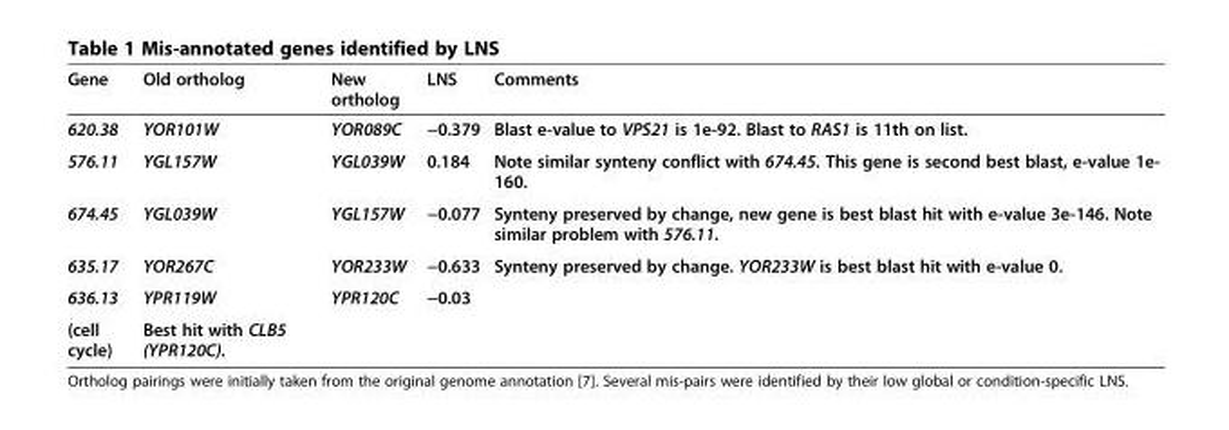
<table><thead><tr><td>Gene</td><td>Old ortholog</td><td>New ortholog</td><td>LNS</td><td>Comments</td></tr></thead><tbody><tr><td>620.38</td><td>YOR101W</td><td>YOR089C</td><td>−0.379</td><td>Blast e-value to VPS21 is 1e-92. Blast to RAS1 is 11th on list.</td></tr><tr><td>576.11</td><td>YGL157W</td><td>YGL039W</td><td>0.184</td><td>Note similar synteny conflict with 674.45. This gene is second best blast, e-value 1e- 160.</td></tr><tr><td>674.45</td><td>YGL039W</td><td>YGL157W</td><td>−0.077</td><td>Synteny preserved by change, new gene is best blast hit with e-value 3e-146. Note similar problem with 576.11.</td></tr><tr><td>635.17</td><td>YOR267C</td><td>YOR233W</td><td>−0.633</td><td>Synteny preserved by change. YOR233W is best blast hit with e-value 0.</td></tr><tr><td>636.13</td><td>YPR119W</td><td>YPR120C</td><td>−0.03</td><td></td></tr><tr><td>(cell cycle)</td><td>Best hit with CLB5 (YPR120C).</td><td></td><td></td><td></td></tr></tbody></table>